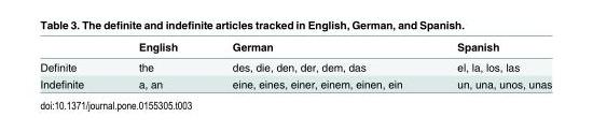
<table><thead><tr><td></td><td>English</td><td>German</td><td>Spanish</td></tr></thead><tbody><tr><td>Definite</td><td>the</td><td>des, die, den, der, dem, das</td><td>el, la, los, las</td></tr><tr><td>Indefinite</td><td>a, an</td><td>eine, eines, einer, einem, einen, ein</td><td>un, una, unos, unas</td></tr></tbody></table>